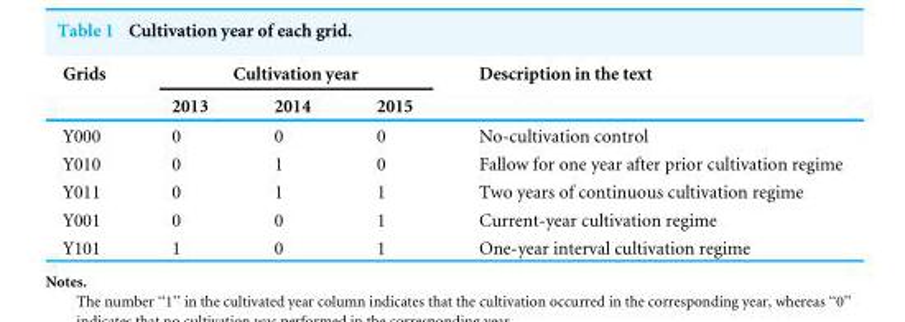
<table><thead><tr><td rowspan="2">Grids</td><td colspan="3">Cultivation year</td><td rowspan="2">Description in the text</td></tr><tr><td>2013</td><td>2014</td><td>2015</td></tr></thead><tbody><tr><td>Y000</td><td>0</td><td>0</td><td>0</td><td>No-cultivation control</td></tr><tr><td>Y010</td><td>0</td><td>1</td><td>0</td><td>Fallow for one year after prior cultivation regime</td></tr><tr><td>Y011</td><td>0</td><td>1</td><td>1</td><td>Two years of continuous cultivation regime</td></tr><tr><td>Y001</td><td>0</td><td>0</td><td>1</td><td>Current-year cultivation regime</td></tr><tr><td>Y101</td><td>1</td><td>0</td><td>1</td><td>One-year interval cultivation regime</td></tr></tbody></table>